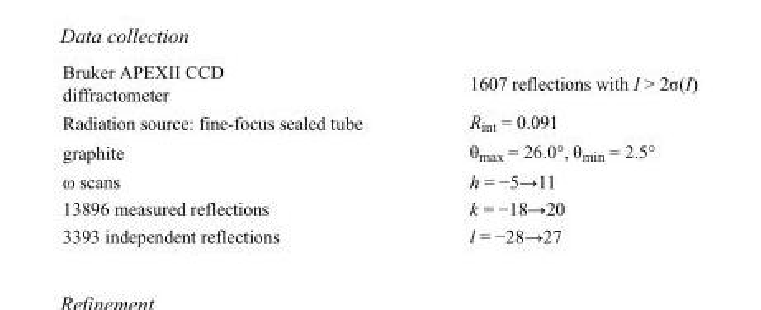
<table><tbody><tr><td>Bruker APEXII CCD diffractometer</td><td>1607 reflections with I &gt; 2σ(I)</td></tr><tr><td>Radiation source: fine-focus sealed tube</td><td>R<sub>int</sub> = 0.091</td></tr><tr><td>graphite</td><td>θ<sub>max</sub> = 26.0°, θ<sub>min</sub> = 2.5°</td></tr><tr><td>ω scans</td><td>h = −5→11</td></tr><tr><td>13896 measured reflections</td><td>k = −18→20</td></tr><tr><td>3393 independent reflections</td><td>l = −28→27</td></tr></tbody></table>